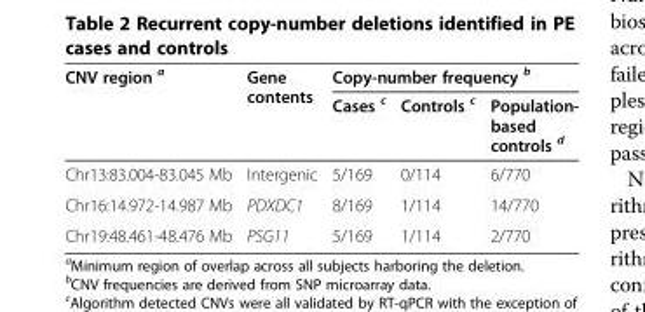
<table><thead><tr><td rowspan="2">CNV region <sup>a</sup></td><td rowspan="2">Gene contents</td><td colspan="3">Copy-number frequency <sup>b</sup></td></tr><tr><td>Cases <sup>c</sup></td><td>Controls <sup>c</sup></td><td>Population- based controls <sup>d</sup></td></tr></thead><tbody><tr><td>Chr13:83.004-83.045 Mb</td><td>Intergenic</td><td>5/169</td><td>0/114</td><td>6/770</td></tr><tr><td>Chr16:14.972-14.987 Mb</td><td>PDXDC1</td><td>8/169</td><td>1/114</td><td>14/770</td></tr><tr><td>Chr19:48.461-48.476 Mb</td><td>PSG11</td><td>5/169</td><td>1/114</td><td>2/770</td></tr></tbody></table>